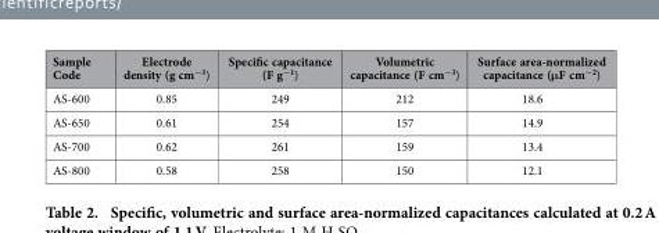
<table><thead><tr><td>Sample Code</td><td>Electrode density (g cm<sup>−3</sup>)</td><td>Specific capacitance (F g<sup>−1</sup>)</td><td>Volumetric capacitance (F cm<sup>−3</sup>)</td><td>Surface area-normalized capacitance (μF cm<sup>−2</sup>)</td></tr></thead><tbody><tr><td>AS-600</td><td>0.85</td><td>249</td><td>212</td><td>18.6</td></tr><tr><td>AS-650</td><td>0.61</td><td>254</td><td>157</td><td>14.9</td></tr><tr><td>AS-700</td><td>0.62</td><td>261</td><td>159</td><td>13.4</td></tr><tr><td>AS-800</td><td>0.58</td><td>258</td><td>150</td><td>12.1</td></tr></tbody></table>